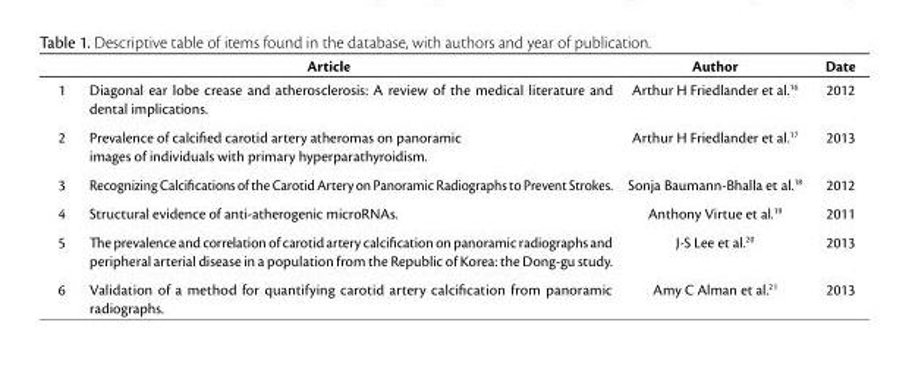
<table><thead><tr><td colspan="2">Article</td><td rowspan="2">Author Arthur H Friedlander et al.<sup>16</sup></td><td rowspan="2">Date 2012</td></tr><tr><td>1</td><td>Diagonal ear lobe crease and atherosclerosis: A review of the medical literature and dental implications.</td></tr></thead><tbody><tr><td>2</td><td>Prevalence of calcified carotid artery atheromas on panoramic images of individuals with primary hyperparathyroidism.</td><td>Arthur H Friedlander et al.<sup>17</sup></td><td>2013</td></tr><tr><td>3</td><td>Recognizing Calcifications of the Carotid Artery on Panoramic Radiographs to Prevent Strokes.</td><td>Sonja Baumann-Bhalla et al.<sup>18</sup></td><td>2012</td></tr><tr><td>4</td><td>Structural evidence of anti-atherogenic microRNAs.</td><td>Anthony Virtue et al.<sup>19</sup></td><td>2011</td></tr><tr><td>5</td><td>The prevalence and correlation of carotid artery calcification on panoramic radiographs and peripheral arterial disease in a population from the Republic of Korea: the Dong-gu study.</td><td>J-S Lee et al.<sup>20</sup></td><td>2013</td></tr><tr><td>6</td><td>Validation of a method for quantifying carotid artery calcification from panoramic radiographs.</td><td>Amy C Alman et al.<sup>21</sup></td><td>2013</td></tr></tbody></table>